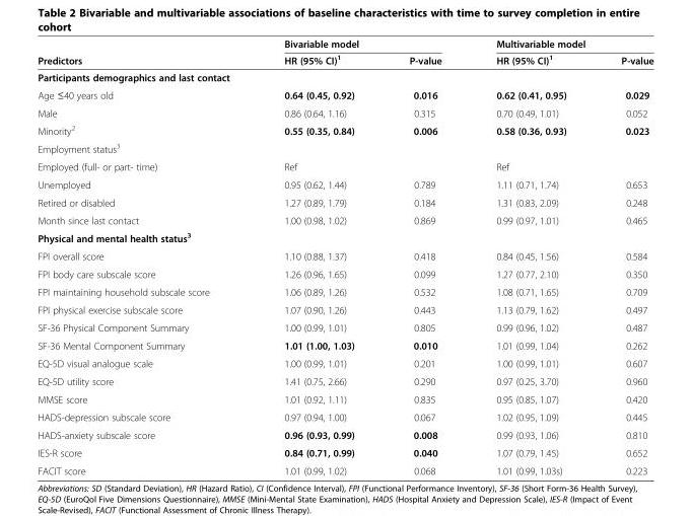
<table><thead><tr><td rowspan="2">Predictors</td><td colspan="2">Bivariable model</td><td colspan="2">Multivariable model</td></tr><tr><td>HR (95% CI)<sup>1</sup></td><td>P-value</td><td>HR (95% CI)<sup>1</sup></td><td>P-value</td></tr></thead><tbody><tr><td colspan="5">Participants demographics and last contact</td></tr><tr><td>Age ≤40 years old</td><td>0.64 (0.45, 0.92)</td><td>0.016</td><td>0.62 (0.41, 0.95)</td><td>0.029</td></tr><tr><td>Male</td><td>0.86 (0.64, 1.16)</td><td>0.315</td><td>0.70 (0.49, 1.01)</td><td>0.052</td></tr><tr><td>Minority<sup>2</sup></td><td>0.55 (0.35, 0.84)</td><td>0.006</td><td>0.58 (0.36, 0.93)</td><td>0.023</td></tr><tr><td colspan="5">Employment status<sup>3</sup></td></tr><tr><td>Employed (full- or part- time)</td><td>Ref</td><td></td><td>Ref</td><td></td></tr><tr><td>Unemployed</td><td>0.95 (0.62, 1.44)</td><td>0.789</td><td>1.11 (0.71, 1.74)</td><td>0.653</td></tr><tr><td>Retired or disabled</td><td>1.27 (0.89, 1.79)</td><td>0.184</td><td>1.31 (0.83, 2.09)</td><td>0.248</td></tr><tr><td>Month since last contact</td><td>1.00 (0.98, 1.02)</td><td>0.869</td><td>0.99 (0.97, 1.01)</td><td>0.465</td></tr><tr><td colspan="5">Physical and mental health status<sup>3</sup></td></tr><tr><td>FPI overall score</td><td>1.10 (0.88, 1.37)</td><td>0.418</td><td>0.84 (0.45, 1.56)</td><td>0.584</td></tr><tr><td>FPI body care subscale score</td><td>1.26 (0.96, 1.65)</td><td>0.099</td><td>1.27 (0.77, 2.10)</td><td>0.350</td></tr><tr><td>FPI maintaining household subscale score</td><td>1.06 (0.89, 1.26)</td><td>0.532</td><td>1.08 (0.71, 1.65)</td><td>0.709</td></tr><tr><td>FPI physical exercise subscale score</td><td>1.07 (0.90, 1.26)</td><td>0.443</td><td>1.13 (0.79, 1.62)</td><td>0.497</td></tr><tr><td>SF-36 Physical Component Summary</td><td>1.00 (0.99, 1.01)</td><td>0.805</td><td>0.99 (0.96, 1.02)</td><td>0.487</td></tr><tr><td>SF-36 Mental Component Summary</td><td>1.01 (1.00, 1.03)</td><td>0.010</td><td>1.01 (0.99, 1.04)</td><td>0.262</td></tr><tr><td>EQ-5D visual analogue scale</td><td>1.00 (0.99, 1.01)</td><td>0.201</td><td>1.00 (0.99, 1.01)</td><td>0.607</td></tr><tr><td>EQ-5D utility score</td><td>1.41 (0.75, 2.66)</td><td>0.290</td><td>0.97 (0.25, 3.70)</td><td>0.960</td></tr><tr><td>MMSE score</td><td>1.01 (0.92, 1.11)</td><td>0.835</td><td>0.95 (0.85, 1.07)</td><td>0.420</td></tr><tr><td>HADS-depression subscale score</td><td>0.97 (0.94, 1.00)</td><td>0.067</td><td>1.02 (0.95, 1.09)</td><td>0.445</td></tr><tr><td>HADS-anxiety subscale score</td><td>0.96 (0.93, 0.99)</td><td>0.008</td><td>0.99 (0.93, 1.06)</td><td>0.810</td></tr><tr><td>IES-R score</td><td>0.84 (0.71, 0.99)</td><td>0.040</td><td>1.07 (0.79, 1.45)</td><td>0.652</td></tr><tr><td>FACIT score</td><td>1.01 (0.99, 1.02)</td><td>0.068</td><td>1.01 (0.99, 1.03s)</td><td>0.223</td></tr></tbody></table>